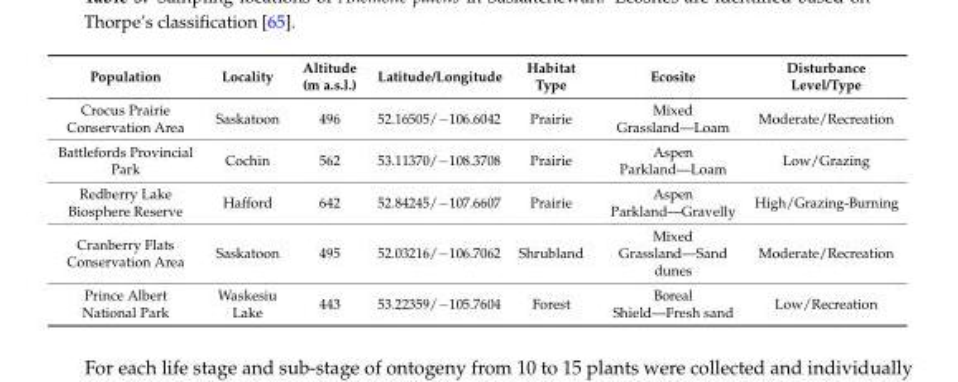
<table><thead><tr><td>Population</td><td>Locality</td><td>Altitude (m a.s.l.)</td><td>Latitude/Longitude</td><td>Habitat Type</td><td>Ecosite</td><td>Disturbance Level/Type</td></tr></thead><tbody><tr><td>Crocus Prairie Conservation Area</td><td>Saskatoon</td><td>496</td><td>52.16505/−106.6042</td><td>Prairie</td><td>Mixed Grassland—Loam</td><td>Moderate/Recreation</td></tr><tr><td>Battlefords Provincial Park</td><td>Cochin</td><td>562</td><td>53.11370/−108.3708</td><td>Prairie</td><td>Aspen Parkland—Loam</td><td>Low/Grazing</td></tr><tr><td>Redberry Lake Biosphere Reserve</td><td>Hafford</td><td>642</td><td>52.84245/−107.6607</td><td>Prairie</td><td>Aspen Parkland—Gravelly</td><td>High/Grazing-Burning</td></tr><tr><td>Cranberry Flats Conservation Area</td><td>Saskatoon</td><td>495</td><td>52.03216/−106.7062</td><td>Shrubland</td><td>Mixed Grassland—Sand dunes</td><td>Moderate/Recreation</td></tr><tr><td>Prince Albert National Park</td><td>Waskesiu Lake</td><td>443</td><td>53.22359/−105.7604</td><td>Forest</td><td>Boreal Shield—Fresh sand</td><td>Low/Recreation</td></tr></tbody></table>